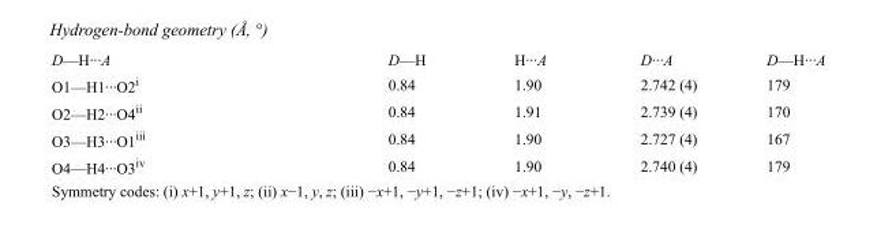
<table><tbody><tr><td>D—H···A</td><td>D—H</td><td>H···A</td><td>D···A</td><td>D—H···A</td></tr><tr><td>O1—H1···O2<sup>i</sup></td><td>0.84</td><td>1.90</td><td>2.742 (4)</td><td>179</td></tr><tr><td>O2—H2···O4<sup>ii</sup></td><td>0.84</td><td>1.91</td><td>2.739 (4)</td><td>170</td></tr><tr><td>O3—H3···O1<sup>iii</sup></td><td>0.84</td><td>1.90</td><td>2.727 (4)</td><td>167</td></tr><tr><td>O4—H4···O3<sup>iv</sup></td><td>0.84</td><td>1.90</td><td>2.740 (4)</td><td>179</td></tr></tbody></table>